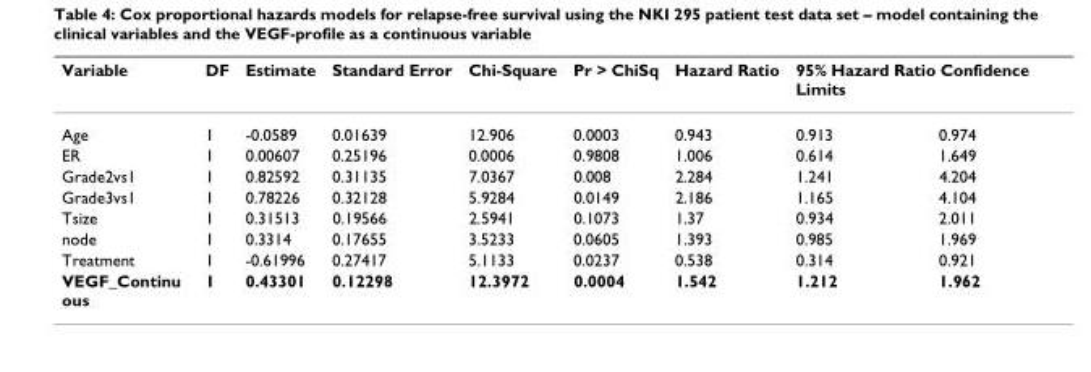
<table><thead><tr><td rowspan="2">Variable Age</td><td rowspan="2">DF 1</td><td rowspan="2">Estimate -0.0589</td><td rowspan="2">Standard Error 0.01639</td><td rowspan="2">Chi-Square 12.906</td><td rowspan="2">Pr &gt; ChiSq 0.0003</td><td rowspan="2">Hazard Ratio 0.943</td><td colspan="2">95% Hazard Ratio Confidence Limits</td></tr><tr><td>0.913</td><td>0.974</td></tr></thead><tbody><tr><td>ER</td><td>1</td><td>0.00607</td><td>0.25196</td><td>0.0006</td><td>0.9808</td><td>1.006</td><td>0.614</td><td>1.649</td></tr><tr><td>Grade2vs1</td><td>1</td><td>0.82592</td><td>0.31135</td><td>7.0367</td><td>0.008</td><td>2.284</td><td>1.241</td><td>4.204</td></tr><tr><td>Grade3vs1</td><td>1</td><td>0.78226</td><td>0.32128</td><td>5.9284</td><td>0.0149</td><td>2.186</td><td>1.165</td><td>4.104</td></tr><tr><td>Tsize</td><td>1</td><td>0.31513</td><td>0.19566</td><td>2.5941</td><td>0.1073</td><td>1.37</td><td>0.934</td><td>2.011</td></tr><tr><td>node</td><td>1</td><td>0.3314</td><td>0.17655</td><td>3.5233</td><td>0.0605</td><td>1.393</td><td>0.985</td><td>1.969</td></tr><tr><td>Treatment</td><td>1</td><td>-0.61996</td><td>0.27417</td><td>5.1133</td><td>0.0237</td><td>0.538</td><td>0.314</td><td>0.921</td></tr><tr><td>VEGF_Continu ous</td><td>1</td><td>0.43301</td><td>0.12298</td><td>12.3972</td><td>0.0004</td><td>1.542</td><td>1.212</td><td>1.962</td></tr></tbody></table>